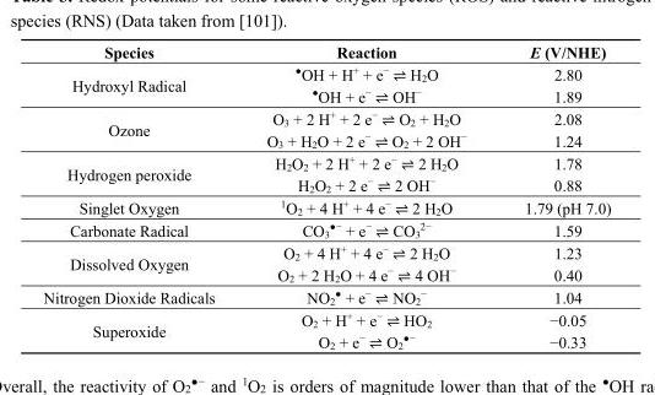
<table><thead><tr><td>Species</td><td>Reaction</td><td>E (V/NHE)</td></tr></thead><tbody><tr><td rowspan="2">Hydroxyl Radical</td><td><sup>●</sup>OH + H<sup>+</sup> + e<sup>−</sup> ⇌ H<sub>2</sub>O</td><td>2.80</td></tr><tr><td><sup>●</sup>OH + e<sup>−</sup> ⇌ OH<sup>−</sup></td><td>1.89</td></tr><tr><td rowspan="2">Ozone</td><td>O<sub>3</sub> + 2 H<sup>+</sup> + 2 e<sup>−</sup> ⇌ O<sub>2</sub> + H<sub>2</sub>O</td><td>2.08</td></tr><tr><td>O<sub>3</sub> + H<sub>2</sub>O + 2 e<sup>−</sup> ⇌ O<sub>2</sub> + 2 OH<sup>−</sup></td><td>1.24</td></tr><tr><td rowspan="2">Hydrogen peroxide</td><td>H<sub>2</sub>O<sub>2</sub> + 2 H<sup>+</sup> + 2 e<sup>−</sup> ⇌ 2 H<sub>2</sub>O</td><td>1.78</td></tr><tr><td>H<sub>2</sub>O<sub>2</sub> + 2 e<sup>−</sup> ⇌ 2 OH<sup>−</sup></td><td>0.88</td></tr><tr><td>Singlet Oxygen</td><td><sup>1</sup>O<sub>2</sub> + 4 H<sup>+</sup> + 4 e<sup>−</sup> ⇌ 2 H<sub>2</sub>O</td><td>1.79 (pH 7.0)</td></tr><tr><td>Carbonate Radical</td><td>CO<sub>3</sub><sup>●−</sup> + e<sup>−</sup> ⇌ CO<sub>3</sub><sup>2−</sup></td><td>1.59</td></tr><tr><td rowspan="2">Dissolved Oxygen</td><td>O<sub>2</sub> + 4 H<sup>+</sup> + 4 e<sup>−</sup> ⇌ 2 H<sub>2</sub>O</td><td>1.23</td></tr><tr><td>O<sub>2</sub> + 2 H<sub>2</sub>O + 4 e<sup>−</sup> ⇌ 4 OH<sup>−</sup></td><td>0.40</td></tr><tr><td>Nitrogen Dioxide Radicals</td><td>NO<sub>2</sub><sup>●</sup> + e<sup>−</sup> ⇌ NO<sub>2</sub><sup>−</sup></td><td>1.04</td></tr><tr><td rowspan="2">Superoxide</td><td>O<sub>2</sub> + H<sup>+</sup> + e<sup>−</sup> ⇌ HO<sub>2</sub></td><td>−0.05</td></tr><tr><td>O<sub>2</sub> + e<sup>−</sup> ⇌ O<sub>2</sub><sup>●−</sup></td><td>−0.33</td></tr></tbody></table>